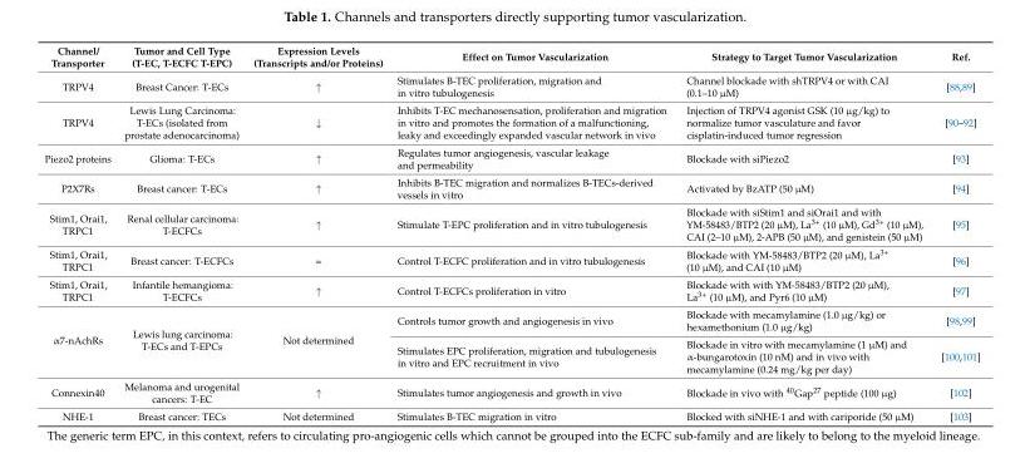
<table><thead><tr><td>Channel/ Transporter</td><td>Tumor and Cell Type (T-EC, T-ECFC T-EPC)</td><td>Expression Levels (Transcripts and/or Proteins)</td><td>Effect on Tumor Vascularization</td><td>Strategy to Target Tumor Vascularization</td><td>Ref.</td></tr></thead><tbody><tr><td>TRPV4</td><td>Breast Cancer: T-ECs</td><td>↑</td><td>Stimulates B-TEC proliferation, migration and in vitro tubulogenesis</td><td>Channel blockade with shTRPV4 or with CAI (0.1–10 µM)</td><td>[88,89]</td></tr><tr><td>TRPV4</td><td>Lewis Lung Carcinoma: T-ECs (isolated from prostate adenocarcinoma)</td><td>↓</td><td>Inhibits T-EC mechanosensation, proliferation and migration in vitro and promotes the formation of a malfunctioning, leaky and exceedingly expanded vascular network in vivo</td><td>Injection of TRPV4 agonist GSK (10 µg/kg) to normalize tumor vasculature and favor cisplatin-induced tumor regression</td><td>[90–92]</td></tr><tr><td>Piezo2 proteins</td><td>Glioma: T-ECs</td><td>↑</td><td>Regulates tumor angiogenesis, vascular leakage and permeability</td><td>Blockade with siPiezo2</td><td>[93]</td></tr><tr><td>P2X7Rs</td><td>Breast cancer: T-ECs</td><td>↑</td><td>Inhibits B-TEC migration and normalizes B-TECs-derived vessels in vitro</td><td>Activated by BzATP (50 µM)</td><td>[94]</td></tr><tr><td>Stim1, Orai1, TRPC1</td><td>Renal cellular carcinoma: T-ECFCs</td><td>↑</td><td>Stimulate T-EPC proliferation and in vitro tubulogenesis</td><td>Blockade with siStim1 and siOrai1 and with YM-58483/BTP2 (20 µM), La<sup>3+</sup> (10 µM), Gd<sup>3+</sup> (10 µM), CAI (2–10 µM), 2-APB (50 µM), and genistein (50 µM)</td><td>[95]</td></tr><tr><td>Stim1, Orai1, TRPC1</td><td>Breast cancer: T-ECFCs</td><td>=</td><td>Control T-ECFC proliferation and in vitro tubulogenesis</td><td>Blockade with YM-58483/BTP2 (20 µM), La<sup>3+</sup> (10 µM), and CAI (10 µM)</td><td>[96]</td></tr><tr><td>Stim1, Orai1, TRPC1</td><td>Infantile hemangioma: T-ECFCs</td><td>↑</td><td>Control T-ECFCs proliferation in vitro</td><td>Blockade with with YM-58483/BTP2 (20 µM), La<sup>3+</sup> (10 µM), and Pyr6 (10 µM)</td><td>[97]</td></tr><tr><td rowspan="2">α7-nAchRs</td><td rowspan="2">Lewis lung carcinoma: T-ECs and T-EPCs</td><td rowspan="2">Not determined</td><td>Controls tumor growth and angiogenesis in vivo</td><td>Blockade with mecamylamine (1.0 µg/kg) or hexamethonium (1.0 µg/kg)</td><td>[98,99]</td></tr><tr><td>Stimulates EPC proliferation, migration and tubulogenesis in vitro and EPC recruitment in vivo</td><td>Blockade in vitro with mecamylamine (1 µM) and α-bungarotoxin (10 nM) and in vivo with mecamylamine (0.24 mg/kg per day)</td><td>[100,101]</td></tr><tr><td>Connexin40</td><td>Melanoma and urogenital cancers: T-EC</td><td>↑</td><td>Stimulates tumor angiogenesis and growth in vivo</td><td>Blockade in vivo with <sup>40</sup>Gap<sup>27</sup> peptide (100 µg)</td><td>[102]</td></tr><tr><td>NHE-1</td><td>Breast cancer: TECs</td><td>Not determined</td><td>Stimulates B-TEC migration in vitro</td><td>Blocked with siNHE-1 and with cariporide (50 µM)</td><td>[103]</td></tr></tbody></table>